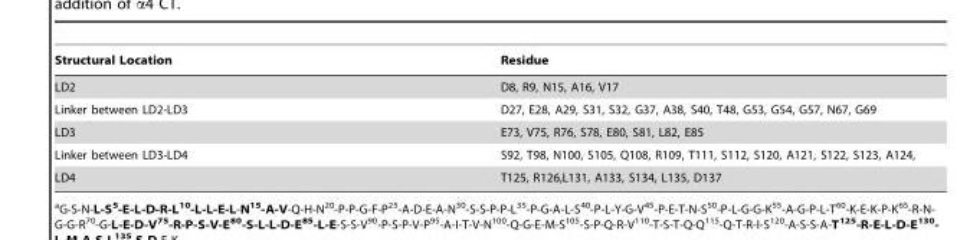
<table><thead><tr><td>Structural Location</td><td>Residue</td></tr></thead><tbody><tr><td>LD2</td><td>D8, R9, N15, A16, V17</td></tr><tr><td>Linker between LD2-LD3</td><td>D27, E28, A29, S31, S32, G37, A38, S40, T48, G53, G54, G57, N67, G69</td></tr><tr><td>LD3</td><td>E73, V75, R76, S78, E80, S81, L82, E85</td></tr><tr><td>Linker between LD3-LD4</td><td>S92, T98, N100, S105, Q108, R109, T111, S112, S120, A121, S122, S123, A124,</td></tr><tr><td>LD4</td><td>T125, R126,L131, A133, S134, L135, D137</td></tr></tbody></table>